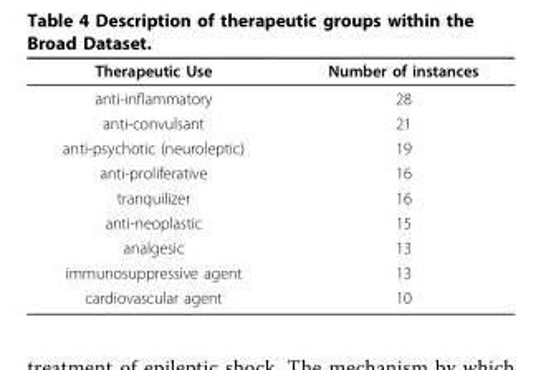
<table><thead><tr><td>Therapeutic Use</td><td>Number of instances</td></tr></thead><tbody><tr><td>anti-inflammatory</td><td>28</td></tr><tr><td>anti-convulsant</td><td>21</td></tr><tr><td>anti-psychotic (neuroleptic)</td><td>19</td></tr><tr><td>anti-proliferative</td><td>16</td></tr><tr><td>tranquilizer</td><td>16</td></tr><tr><td>anti-neoplastic</td><td>15</td></tr><tr><td>analgesic</td><td>13</td></tr><tr><td>immunosuppressive agent</td><td>13</td></tr><tr><td>cardiovascular agent</td><td>10</td></tr></tbody></table>